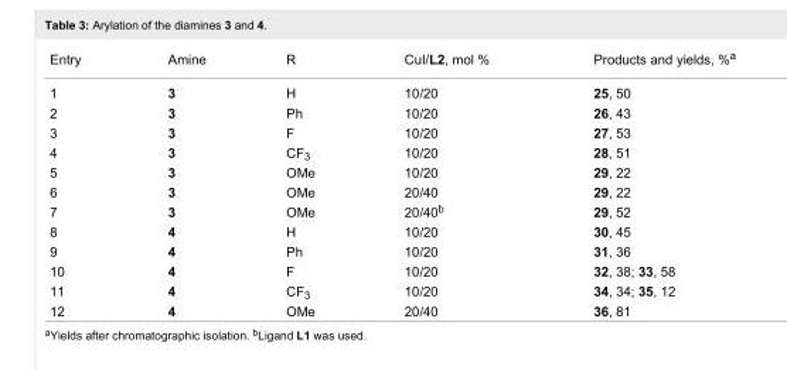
<table><tbody><tr><td>Entry</td><td>Amine</td><td>R</td><td>CuI/L2, mol %</td><td>Products and yields, %<sup>a</sup></td></tr><tr><td>1</td><td>3</td><td>H</td><td>10/20</td><td>25, 50</td></tr><tr><td>2</td><td>3</td><td>Ph</td><td>10/20</td><td>26, 43</td></tr><tr><td>3</td><td>3</td><td>F</td><td>10/20</td><td>27, 53</td></tr><tr><td>4</td><td>3</td><td>CF<sub>3</sub></td><td>10/20</td><td>28, 51</td></tr><tr><td>5</td><td>3</td><td>OMe</td><td>10/20</td><td>29, 22</td></tr><tr><td>6</td><td>3</td><td>OMe</td><td>20/40</td><td>29, 22</td></tr><tr><td>7</td><td>3</td><td>OMe</td><td>20/40<sup>b</sup></td><td>29, 52</td></tr><tr><td>8</td><td>4</td><td>H</td><td>10/20</td><td>30, 45</td></tr><tr><td>9</td><td>4</td><td>Ph</td><td>10/20</td><td>31, 36</td></tr><tr><td>10</td><td>4</td><td>F</td><td>10/20</td><td>32, 38; 33, 58</td></tr><tr><td>11</td><td>4</td><td>CF<sub>3</sub></td><td>10/20</td><td>34, 34; 35, 12</td></tr><tr><td>12</td><td>4</td><td>OMe</td><td>20/40</td><td>36, 81</td></tr></tbody></table>